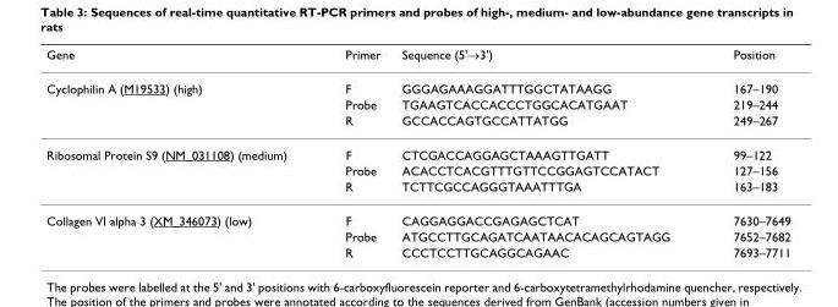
<table><thead><tr><td>Gene</td><td>Primer</td><td>Sequence (5&#x27;→3&#x27;)</td><td>Position</td></tr></thead><tbody><tr><td rowspan="3">Cyclophilin A (M19533) (high)</td><td>F</td><td>GGGAGAAAGGATTTGGCTATAAGG</td><td>167–190</td></tr><tr><td>Probe</td><td>TGAAGTCACCACCCTGGCACATGAAT</td><td>219–244</td></tr><tr><td>R</td><td>GCCACCAGTGCCATTATGG</td><td>249–267</td></tr><tr><td rowspan="3">Ribosomal Protein S9 (NM_031108) (medium)</td><td>F</td><td>CTCGACCAGGAGCTAAAGTTGATT</td><td>99–122</td></tr><tr><td>Probe</td><td>ACACCTCACGTTTGTTCCGGAGTCCATACT</td><td>127–156</td></tr><tr><td>R</td><td>TCTTCGCCAGGGTAAATTTGA</td><td>163–183</td></tr><tr><td rowspan="3">Collagen VI alpha 3 (XM_346073) (low)</td><td>F</td><td>CAGGAGGACCGAGAGCTCAT</td><td>7630–7649</td></tr><tr><td>Probe</td><td>ATGCCTTGCAGATCAATAACACAGCAGTAGG</td><td>7652–7682</td></tr><tr><td>R</td><td>CCCTCCTTGCAGGCAGAAC</td><td>7693–7711</td></tr></tbody></table>